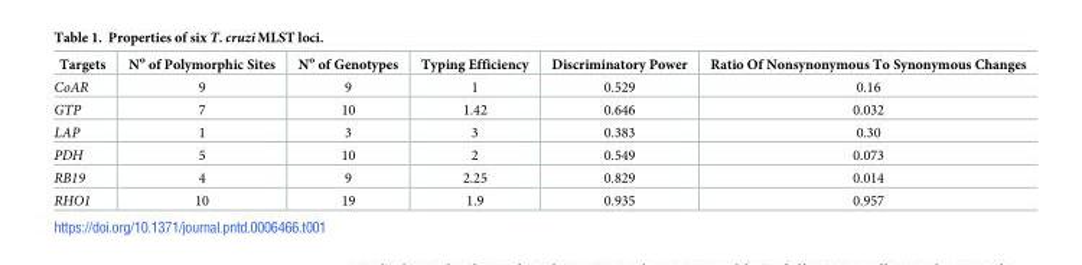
<table><thead><tr><td>Targets</td><td>N<sup>o</sup> of Polymorphic Sites</td><td>N<sup>o</sup> of Genotypes</td><td>Typing Efficiency</td><td>Discriminatory Power</td><td>Ratio Of Nonsynonymous To Synonymous Changes</td></tr></thead><tbody><tr><td>CoAR</td><td>9</td><td>9</td><td>1</td><td>0.529</td><td>0.16</td></tr><tr><td>GTP</td><td>7</td><td>10</td><td>1.42</td><td>0.646</td><td>0.032</td></tr><tr><td>LAP</td><td>1</td><td>3</td><td>3</td><td>0.383</td><td>0.30</td></tr><tr><td>PDH</td><td>5</td><td>10</td><td>2</td><td>0.549</td><td>0.073</td></tr><tr><td>RB19</td><td>4</td><td>9</td><td>2.25</td><td>0.829</td><td>0.014</td></tr><tr><td>RHO1</td><td>10</td><td>19</td><td>1.9</td><td>0.935</td><td>0.957</td></tr></tbody></table>